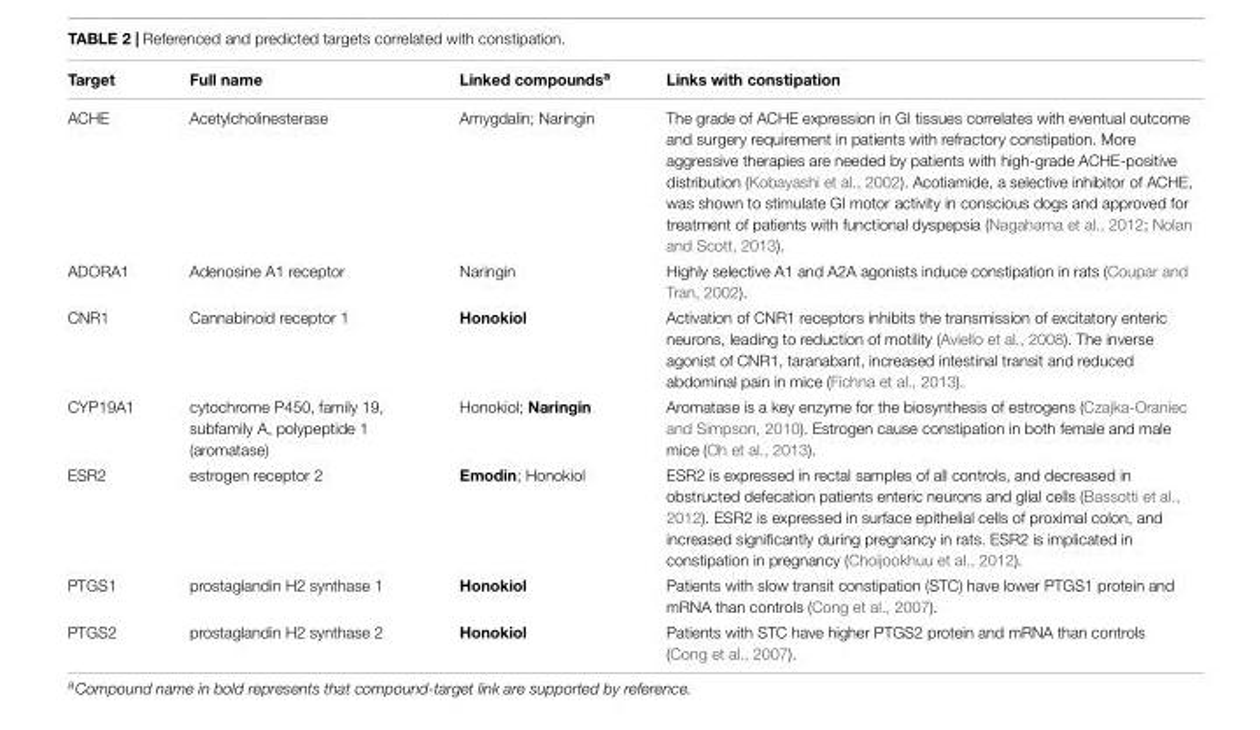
<table><thead><tr><td>Target</td><td>Full name</td><td>Linked compounds<sup>a</sup></td><td>Links with constipation</td></tr></thead><tbody><tr><td>ACHE</td><td>Acetylcholinesterase</td><td>Amygdalin; Naringin</td><td>The grade of ACHE expression in GI tissues correlates with eventual outcome and surgery requirement in patients with refractory constipation. More aggressive therapies are needed by patients with high-grade ACHE-positive distribution (Kobayashi et al., 2002). Acotiamide, a selective inhibitor of ACHE, was shown to stimulate GI motor activity in conscious dogs and approved for treatment of patients with functional dyspepsia (Nagahama et al., 2012; Nolan and Scott, 2013).</td></tr><tr><td>ADORA1</td><td>Adenosine A1 receptor</td><td>Naringin</td><td>Highly selective A1 and A2A agonists induce constipation in rats (Coupar and Tran, 2002).</td></tr><tr><td>CNR1</td><td>Cannabinoid receptor 1</td><td>Honokiol</td><td>Activation of CNR1 receptors inhibits the transmission of excitatory enteric neurons, leading to reduction of motility (Aviello et al., 2008). The inverse agonist of CNR1, taranabant, increased intestinal transit and reduced abdominal pain in mice (Fichna et al., 2013).</td></tr><tr><td>CYP19A1</td><td>cytochrome P450, family 19, subfamily A, polypeptide 1 (aromatase)</td><td>Honokiol; Naringin</td><td>Aromatase is a key enzyme for the biosynthesis of estrogens (Czajka-Oraniec and Simpson, 2010). Estrogen cause constipation in both female and male mice (Oh et al., 2013).</td></tr><tr><td>ESR2</td><td>estrogen receptor 2</td><td>Emodin; Honokiol</td><td>ESR2 is expressed in rectal samples of all controls, and decreased in obstructed defecation patients enteric neurons and glial cells (Bassotti et al., 2012). ESR2 is expressed in surface epithelial cells of proximal colon, and increased significantly during pregnancy in rats. ESR2 is implicated in constipation in pregnancy (Choijookhuu et al., 2012).</td></tr><tr><td>PTGS1</td><td>prostaglandin H2 synthase 1</td><td>Honokiol</td><td>Patients with slow transit constipation (STC) have lower PTGS1 protein and mRNA than controls (Cong et al., 2007).</td></tr><tr><td>PTGS2</td><td>prostaglandin H2 synthase 2</td><td>Honokiol</td><td>Patients with STC have higher PTGS2 protein and mRNA than controls (Cong et al., 2007).</td></tr></tbody></table>